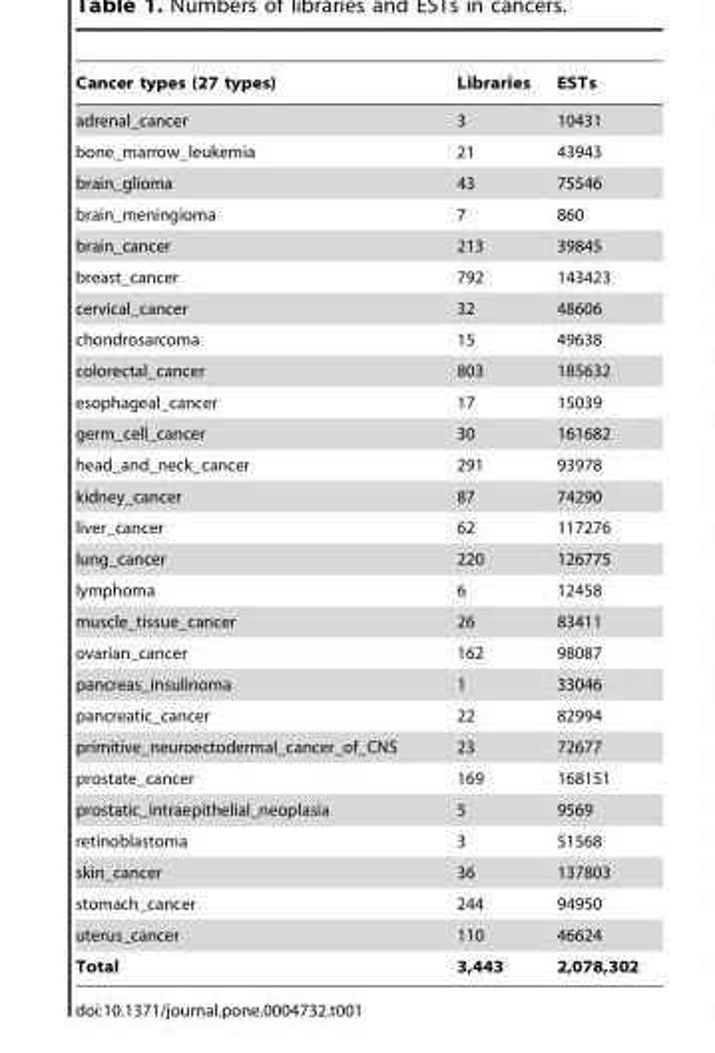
<table><thead><tr><td>Cancer types (27 types)</td><td>Libraries</td><td>ESTs</td></tr></thead><tbody><tr><td>adrenal_cancer</td><td>3</td><td>10431</td></tr><tr><td>bone_marrow_leukemia</td><td>21</td><td>43943</td></tr><tr><td>brain_glioma</td><td>43</td><td>75546</td></tr><tr><td>brain_meningioma</td><td>7</td><td>860</td></tr><tr><td>brain_cancer</td><td>213</td><td>39845</td></tr><tr><td>breast_cancer</td><td>792</td><td>143423</td></tr><tr><td>cervical_cancer</td><td>32</td><td>48606</td></tr><tr><td>chondrosarcoma</td><td>15</td><td>49638</td></tr><tr><td>colorectal_cancer</td><td>803</td><td>185632</td></tr><tr><td>esophageal_cancer</td><td>17</td><td>15039</td></tr><tr><td>germ_cell_cancer</td><td>30</td><td>161682</td></tr><tr><td>head_and_neck_cancer</td><td>291</td><td>93978</td></tr><tr><td>kidney_cancer</td><td>87</td><td>74290</td></tr><tr><td>liver_cancer</td><td>62</td><td>117276</td></tr><tr><td>lung_cancer</td><td>220</td><td>126775</td></tr><tr><td>lymphoma</td><td>6</td><td>12458</td></tr><tr><td>muscle_tissue_cancer</td><td>26</td><td>83411</td></tr><tr><td>ovarian_cancer</td><td>162</td><td>98087</td></tr><tr><td>pancreas_insulinoma</td><td>1</td><td>33046</td></tr><tr><td>pancreatic_cancer</td><td>22</td><td>82994</td></tr><tr><td>primitive_neuroectodermal_cancer_of_CNS</td><td>23</td><td>72677</td></tr><tr><td>prostate_cancer</td><td>169</td><td>168151</td></tr><tr><td>prostatic_intraepithelial_neoplasia</td><td>5</td><td>9569</td></tr><tr><td>retinoblastoma</td><td>3</td><td>51568</td></tr><tr><td>skin_cancer</td><td>36</td><td>137803</td></tr><tr><td>stomach_cancer</td><td>244</td><td>94950</td></tr><tr><td>uterus_cancer</td><td>110</td><td>46624</td></tr><tr><td>Total</td><td>3,443</td><td>2,078,302</td></tr></tbody></table>